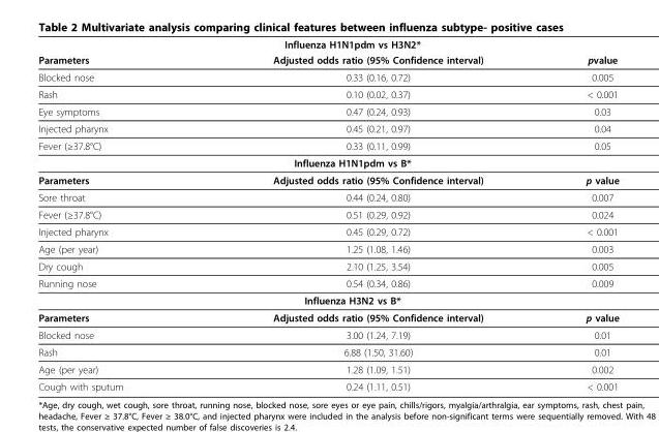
<table><thead><tr><td colspan="3">Influenza H1N1pdm vs H3N2*</td></tr><tr><td>Parameters</td><td>Adjusted odds ratio (95% Confidence interval)</td><td>pvalue</td></tr></thead><tbody><tr><td>Blocked nose</td><td>0.33 (0.16, 0.72)</td><td>0.005</td></tr><tr><td>Rash</td><td>0.10 (0.02, 0.37)</td><td>&lt; 0.001</td></tr><tr><td>Eye symptoms</td><td>0.47 (0.24, 0.93)</td><td>0.03</td></tr><tr><td>Injected pharynx</td><td>0.45 (0.21, 0.97)</td><td>0.04</td></tr><tr><td>Fever (≥37.8°C)</td><td>0.33 (0.11, 0.99)</td><td>0.05</td></tr><tr><td colspan="3">Influenza H1N1pdm vs B*</td></tr><tr><td>Parameters</td><td>Adjusted odds ratio (95% Confidence interval)</td><td>p value</td></tr><tr><td>Sore throat</td><td>0.44 (0.24, 0.80)</td><td>0.007</td></tr><tr><td>Fever (≥37.8°C)</td><td>0.51 (0.29, 0.92)</td><td>0.024</td></tr><tr><td>Injected pharynx</td><td>0.45 (0.29, 0.72)</td><td>&lt; 0.001</td></tr><tr><td>Age (per year)</td><td>1.25 (1.08, 1.46)</td><td>0.003</td></tr><tr><td>Dry cough</td><td>2.10 (1.25, 3.54)</td><td>0.005</td></tr><tr><td>Running nose</td><td>0.54 (0.34, 0.86)</td><td>0.009</td></tr><tr><td colspan="3">Influenza H3N2 vs B*</td></tr><tr><td>Parameters</td><td>Adjusted odds ratio (95% Confidence interval)</td><td>p value</td></tr><tr><td>Blocked nose</td><td>3.00 (1.24, 7.19)</td><td>0.01</td></tr><tr><td>Rash</td><td>6.88 (1.50, 31.60)</td><td>0.01</td></tr><tr><td>Age (per year)</td><td>1.28 (1.09, 1.51)</td><td>0.002</td></tr><tr><td>Cough with sputum</td><td>0.24 (1.11, 0.51)</td><td>&lt; 0.001</td></tr></tbody></table>